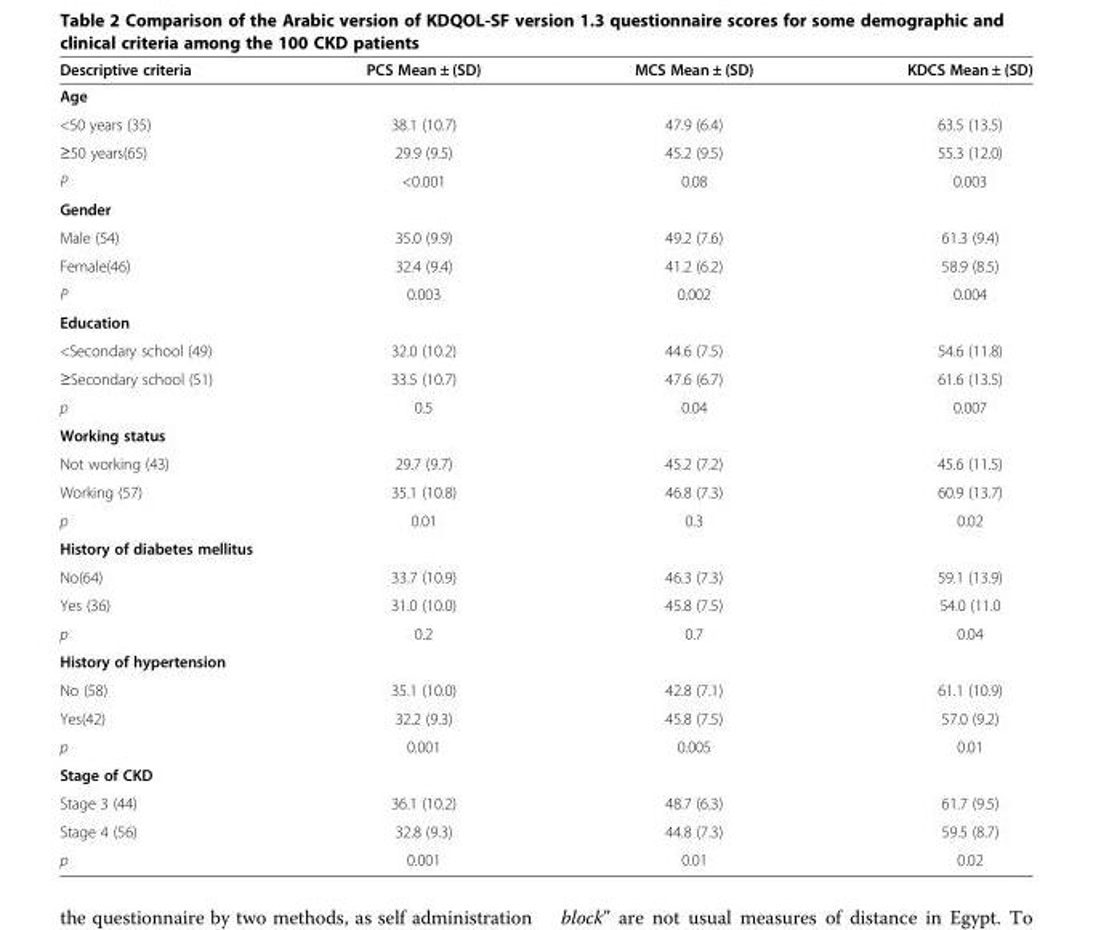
<table><thead><tr><td>Descriptive criteria</td><td>PCS Mean ± (SD)</td><td>MCS Mean ± (SD)</td><td>KDCS Mean ± (SD)</td></tr></thead><tbody><tr><td colspan="4">Age</td></tr><tr><td>&lt;50 years (35)</td><td>38.1 (10.7)</td><td>47.9 (6.4)</td><td>63.5 (13.5)</td></tr><tr><td>≥50 years(65)</td><td>29.9 (9.5)</td><td>45.2 (9.5)</td><td>55.3 (12.0)</td></tr><tr><td>P</td><td>&lt;0.001</td><td>0.08</td><td>0.003</td></tr><tr><td colspan="4">Gender</td></tr><tr><td>Male (54)</td><td>35.0 (9.9)</td><td>49.2 (7.6)</td><td>61.3 (9.4)</td></tr><tr><td>Female(46)</td><td>32.4 (9.4)</td><td>41.2 (6.2)</td><td>58.9 (8.5)</td></tr><tr><td>P</td><td>0.003</td><td>0.002</td><td>0.004</td></tr><tr><td colspan="4">Education</td></tr><tr><td>&lt;Secondary school (49)</td><td>32.0 (10.2)</td><td>44.6 (7.5)</td><td>54.6 (11.8)</td></tr><tr><td>≥Secondary school (51)</td><td>33.5 (10.7)</td><td>47.6 (6.7)</td><td>61.6 (13.5)</td></tr><tr><td>p</td><td>0.5</td><td>0.04</td><td>0.007</td></tr><tr><td colspan="4">Working status</td></tr><tr><td>Not working (43)</td><td>29.7 (9.7)</td><td>45.2 (7.2)</td><td>45.6 (11.5)</td></tr><tr><td>Working (57)</td><td>35.1 (10.8)</td><td>46.8 (7.3)</td><td>60.9 (13.7)</td></tr><tr><td>p</td><td>0.01</td><td>0.3</td><td>0.02</td></tr><tr><td colspan="4">History of diabetes mellitus</td></tr><tr><td>No(64)</td><td>33.7 (10.9)</td><td>46.3 (7.3)</td><td>59.1 (13.9)</td></tr><tr><td>Yes (36)</td><td>31.0 (10.0)</td><td>45.8 (7.5)</td><td>54.0 (11.0</td></tr><tr><td>p</td><td>0.2</td><td>0.7</td><td>0.04</td></tr><tr><td colspan="4">History of hypertension</td></tr><tr><td>No (58)</td><td>35.1 (10.0)</td><td>42.8 (7.1)</td><td>61.1 (10.9)</td></tr><tr><td>Yes(42)</td><td>32.2 (9.3)</td><td>45.8 (7.5)</td><td>57.0 (9.2)</td></tr><tr><td>p</td><td>0.001</td><td>0.005</td><td>0.01</td></tr><tr><td colspan="4">Stage of CKD</td></tr><tr><td>Stage 3 (44)</td><td>36.1 (10.2)</td><td>48.7 (6.3)</td><td>61.7 (9.5)</td></tr><tr><td>Stage 4 (56)</td><td>32.8 (9.3)</td><td>44.8 (7.3)</td><td>59.5 (8.7)</td></tr><tr><td>p</td><td>0.001</td><td>0.01</td><td>0.02</td></tr></tbody></table>